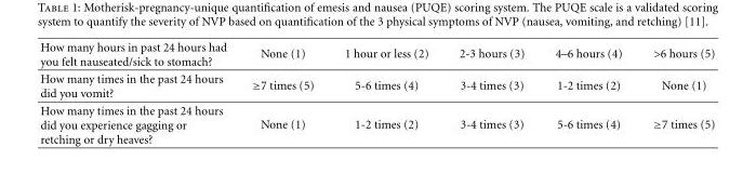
<table><thead><tr><td>How many hours in past 24 hours had you felt nauseated/sick to stomach?</td><td>None (1)</td><td>1 hour or less (2)</td><td>2-3 hours (3)</td><td>4–6 hours (4)</td><td>&gt;6 hours (5)</td></tr></thead><tbody><tr><td>How many times in the past 24 hours did you vomit?</td><td>≥7 times (5)</td><td>5-6 times (4)</td><td>3-4 times (3)</td><td>1-2 times (2)</td><td>None (1)</td></tr><tr><td>How many times in the past 24 hours did you experience gagging or retching or dry heaves?</td><td>None (1)</td><td>1-2 times (2)</td><td>3-4 times (3)</td><td>5-6 times (4)</td><td>≥7 times (5)</td></tr></tbody></table>